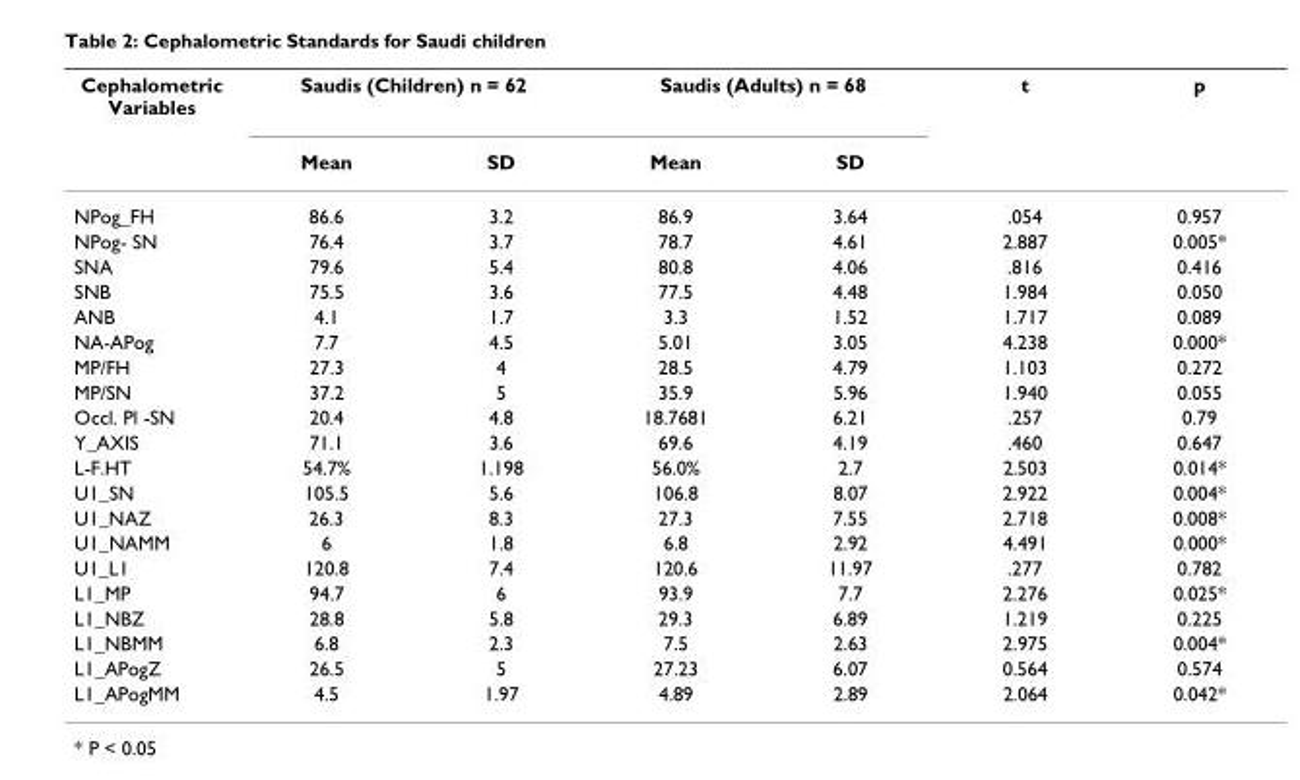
<table><thead><tr><td rowspan="2">Cephalometric Variables</td><td colspan="2">Saudis (Children) n = 62</td><td colspan="2">Saudis (Adults) n = 68</td><td rowspan="2">t</td><td rowspan="2">p</td></tr><tr><td>Mean</td><td>SD</td><td>Mean</td><td>SD</td></tr></thead><tbody><tr><td>NPog_FH</td><td>86.6</td><td>3.2</td><td>86.9</td><td>3.64</td><td>.054</td><td>0.957</td></tr><tr><td>NPog- SN</td><td>76.4</td><td>3.7</td><td>78.7</td><td>4.61</td><td>2.887</td><td>0.005*</td></tr><tr><td>SNA</td><td>79.6</td><td>5.4</td><td>80.8</td><td>4.06</td><td>.816</td><td>0.416</td></tr><tr><td>SNB</td><td>75.5</td><td>3.6</td><td>77.5</td><td>4.48</td><td>1.984</td><td>0.050</td></tr><tr><td>ANB</td><td>4.1</td><td>1.7</td><td>3.3</td><td>1.52</td><td>1.717</td><td>0.089</td></tr><tr><td>NA-APog</td><td>7.7</td><td>4.5</td><td>5.01</td><td>3.05</td><td>4.238</td><td>0.000*</td></tr><tr><td>MP/FH</td><td>27.3</td><td>4</td><td>28.5</td><td>4.79</td><td>1.103</td><td>0.272</td></tr><tr><td>MP/SN</td><td>37.2</td><td>5</td><td>35.9</td><td>5.96</td><td>1.940</td><td>0.055</td></tr><tr><td>Occl. Pl -SN</td><td>20.4</td><td>4.8</td><td>18.7681</td><td>6.21</td><td>.257</td><td>0.79</td></tr><tr><td>Y_AXIS</td><td>71.1</td><td>3.6</td><td>69.6</td><td>4.19</td><td>.460</td><td>0.647</td></tr><tr><td>L-F.HT</td><td>54.7%</td><td>1.198</td><td>56.0%</td><td>2.7</td><td>2.503</td><td>0.014*</td></tr><tr><td>U1_SN</td><td>105.5</td><td>5.6</td><td>106.8</td><td>8.07</td><td>2.922</td><td>0.004*</td></tr><tr><td>U1_NAZ</td><td>26.3</td><td>8.3</td><td>27.3</td><td>7.55</td><td>2.718</td><td>0.008*</td></tr><tr><td>U1_NAMM</td><td>6</td><td>1.8</td><td>6.8</td><td>2.92</td><td>4.491</td><td>0.000*</td></tr><tr><td>U1_L1</td><td>120.8</td><td>7.4</td><td>120.6</td><td>11.97</td><td>.277</td><td>0.782</td></tr><tr><td>L1_MP</td><td>94.7</td><td>6</td><td>93.9</td><td>7.7</td><td>2.276</td><td>0.025*</td></tr><tr><td>L1_NBZ</td><td>28.8</td><td>5.8</td><td>29.3</td><td>6.89</td><td>1.219</td><td>0.225</td></tr><tr><td>L1_NBMM</td><td>6.8</td><td>2.3</td><td>7.5</td><td>2.63</td><td>2.975</td><td>0.004*</td></tr><tr><td>L1_APogZ</td><td>26.5</td><td>5</td><td>27.23</td><td>6.07</td><td>0.564</td><td>0.574</td></tr><tr><td>L1_APogMM</td><td>4.5</td><td>1.97</td><td>4.89</td><td>2.89</td><td>2.064</td><td>0.042*</td></tr></tbody></table>